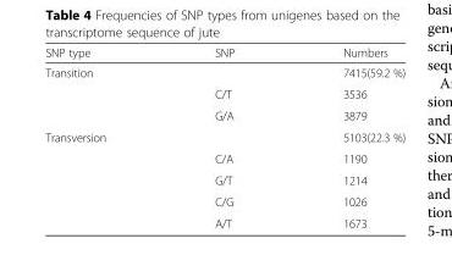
<table><thead><tr><td>SNP type</td><td>SNP</td><td>Numbers</td></tr></thead><tbody><tr><td rowspan="3">Transition</td><td></td><td>7415(59.2 %)</td></tr><tr><td>C/T</td><td>3536</td></tr><tr><td>G/A</td><td>3879</td></tr><tr><td rowspan="5">Transversion</td><td></td><td>5103(22.3 %)</td></tr><tr><td>C/A</td><td>1190</td></tr><tr><td>G/T</td><td>1214</td></tr><tr><td>C/G</td><td>1026</td></tr><tr><td>A/T</td><td>1673</td></tr></tbody></table>